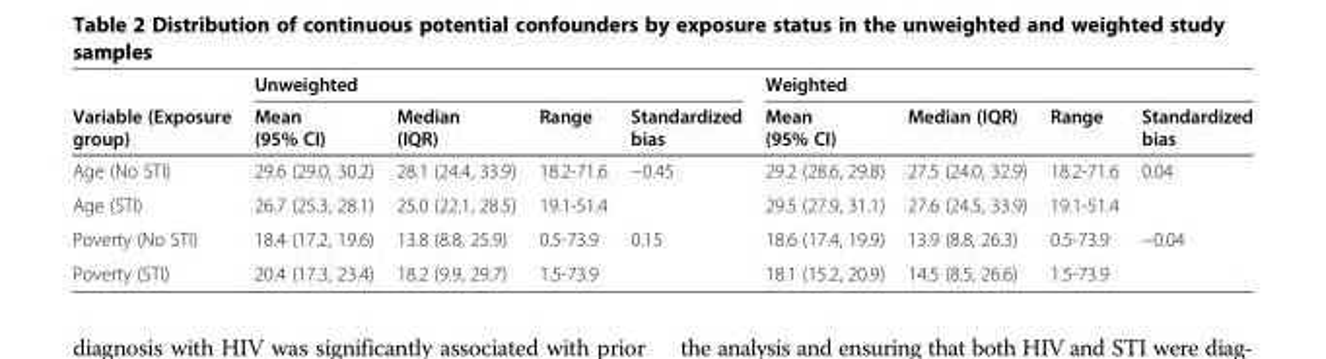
<table><thead><tr><td rowspan="2">Variable (Exposure group)</td><td colspan="4">Unweighted</td><td colspan="4">Weighted</td></tr><tr><td>Mean (95% CI)</td><td>Median (IQR)</td><td>Range</td><td>Standardized bias</td><td>Mean (95% CI)</td><td>Median (IQR)</td><td>Range</td><td>Standardized bias</td></tr></thead><tbody><tr><td>Age (No STI)</td><td>29.6 (29.0, 30.2)</td><td>28.1 (24.4, 33.9)</td><td>18.2-71.6</td><td>−0.45</td><td>29.2 (28.6, 29.8)</td><td>27.5 (24.0, 32.9)</td><td>18.2-71.6</td><td>0.04</td></tr><tr><td>Age (STI)</td><td>26.7 (25.3, 28.1)</td><td>25.0 (22.1, 28.5)</td><td>19.1-51.4</td><td></td><td>29.5 (27.9, 31.1)</td><td>27.6 (24.5, 33.9)</td><td>19.1-51.4</td><td></td></tr><tr><td>Poverty (No STI)</td><td>18.4 (17.2, 19.6)</td><td>13.8 (8.8, 25.9)</td><td>0.5-73.9</td><td>0.15</td><td>18.6 (17.4, 19.9)</td><td>13.9 (8.8, 26.3)</td><td>0.5-73.9</td><td>−0.04</td></tr><tr><td>Poverty (STI)</td><td>20.4 (17.3, 23.4)</td><td>18.2 (9.9, 29.7)</td><td>1.5-73.9</td><td></td><td>18.1 (15.2, 20.9)</td><td>14.5 (8.5, 26.6)</td><td>1.5-73.9</td><td></td></tr></tbody></table>